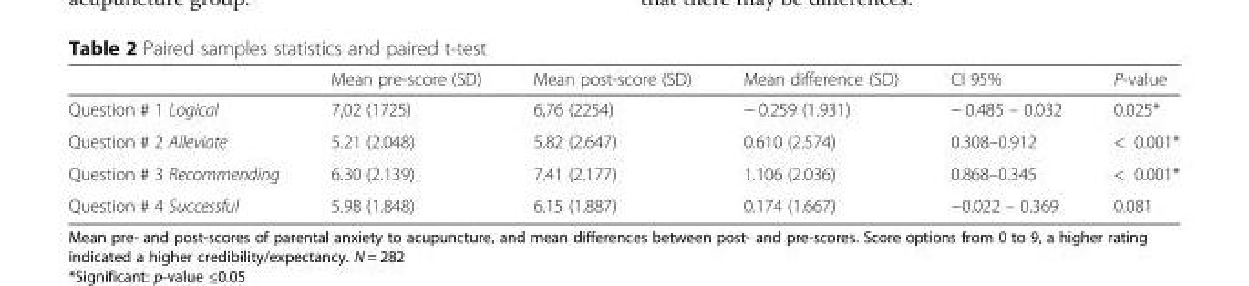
<table><thead><tr><td></td><td>Mean pre-score (SD)</td><td>Mean post-score (SD)</td><td>Mean difference (SD)</td><td>CI 95%</td><td>P-value</td></tr></thead><tbody><tr><td>Question # 1 Logical</td><td>7,02 (1725)</td><td>6,76 (2254)</td><td>− 0.259 (1.931)</td><td>− 0.485 – 0.032</td><td>0.025*</td></tr><tr><td>Question # 2 Alleviate</td><td>5.21 (2.048)</td><td>5.82 (2.647)</td><td>0.610 (2.574)</td><td>0.308–0.912</td><td>&lt; 0.001*</td></tr><tr><td>Question # 3 Recommending</td><td>6.30 (2.139)</td><td>7.41 (2.177)</td><td>1.106 (2.036)</td><td>0.868–0.345</td><td>&lt; 0.001*</td></tr><tr><td>Question # 4 Successful</td><td>5.98 (1.848)</td><td>6.15 (1.887)</td><td>0.174 (1.667)</td><td>−0.022 – 0.369</td><td>0.081</td></tr></tbody></table>